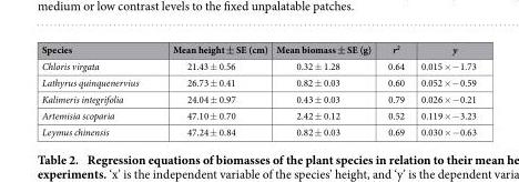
<table><thead><tr><td>Species</td><td>Mean height ± SE (cm)</td><td>Mean biomass ± SE (g)</td><td>r<sup>2</sup></td><td>y</td></tr></thead><tbody><tr><td>Chloris virgata</td><td>21.43 ± 0.56</td><td>0.32 ± 1.28</td><td>0.64</td><td>0.015 × − 1.73</td></tr><tr><td>Lathyrus quinquenervius</td><td>26.73 ± 0.41</td><td>0.82 ± 0.03</td><td>0.60</td><td>0.052 × − 0.59</td></tr><tr><td>Kalimeris integrifolia</td><td>24.04 ± 0.97</td><td>0.43 ± 0.03</td><td>0.79</td><td>0.026 × − 0.21</td></tr><tr><td>Artemisia scoparia</td><td>47.10 ± 0.70</td><td>2.42 ± 0.12</td><td>0.52</td><td>0.119 × − 3.23</td></tr><tr><td>Leymus chinensis</td><td>47.24 ± 0.84</td><td>0.82 ± 0.03</td><td>0.69</td><td>0.030 × − 0.63</td></tr></tbody></table>